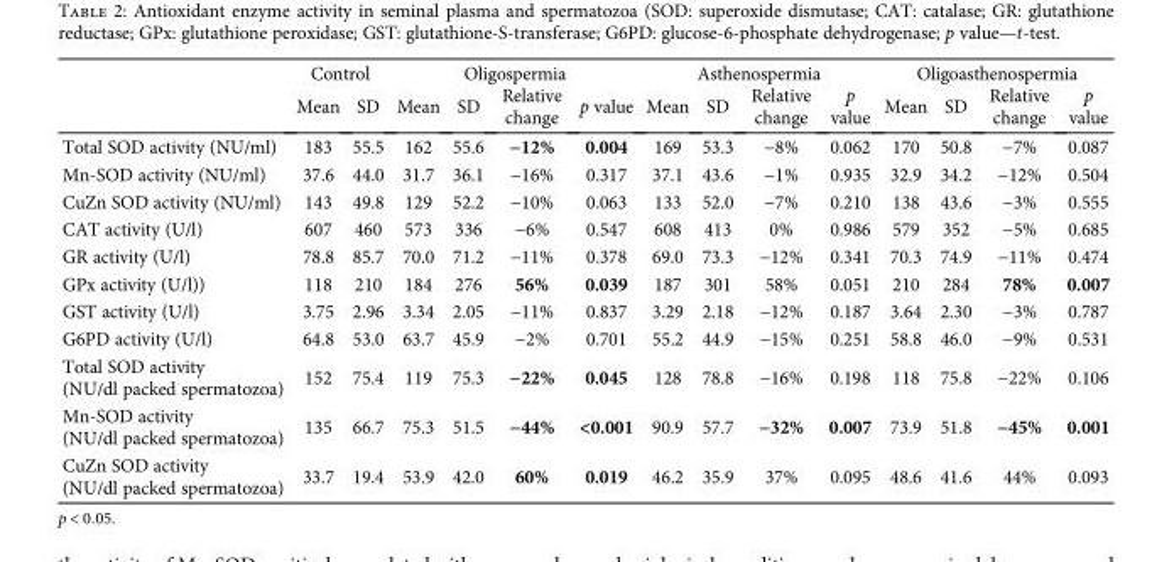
<table><thead><tr><td rowspan="2"></td><td colspan="2">Control</td><td colspan="4">Oligospermia</td><td colspan="4">Asthenospermia</td><td colspan="4">Oligoasthenospermia</td></tr><tr><td>Mean</td><td>SD</td><td>Mean</td><td>SD</td><td>Relative change</td><td>p value</td><td>Mean</td><td>SD</td><td>Relative change</td><td>p value</td><td>Mean</td><td>SD</td><td>Relative change</td><td>p value</td></tr></thead><tbody><tr><td>Total SOD activity (NU/ml)</td><td>183</td><td>55.5</td><td>162</td><td>55.6</td><td>−12%</td><td>0.004</td><td>169</td><td>53.3</td><td>−8%</td><td>0.062</td><td>170</td><td>50.8</td><td>−7%</td><td>0.087</td></tr><tr><td>Mn-SOD activity (NU/ml)</td><td>37.6</td><td>44.0</td><td>31.7</td><td>36.1</td><td>−16%</td><td>0.317</td><td>37.1</td><td>43.6</td><td>−1%</td><td>0.935</td><td>32.9</td><td>34.2</td><td>−12%</td><td>0.504</td></tr><tr><td>CuZn SOD activity (NU/ml)</td><td>143</td><td>49.8</td><td>129</td><td>52.2</td><td>−10%</td><td>0.063</td><td>133</td><td>52.0</td><td>−7%</td><td>0.210</td><td>138</td><td>43.6</td><td>−3%</td><td>0.555</td></tr><tr><td>CAT activity (U/l)</td><td>607</td><td>460</td><td>573</td><td>336</td><td>−6%</td><td>0.547</td><td>608</td><td>413</td><td>0%</td><td>0.986</td><td>579</td><td>352</td><td>−5%</td><td>0.685</td></tr><tr><td>GR activity (U/l)</td><td>78.8</td><td>85.7</td><td>70.0</td><td>71.2</td><td>−11%</td><td>0.378</td><td>69.0</td><td>73.3</td><td>−12%</td><td>0.341</td><td>70.3</td><td>74.9</td><td>−11%</td><td>0.474</td></tr><tr><td>GPx activity (U/l))</td><td>118</td><td>210</td><td>184</td><td>276</td><td>56%</td><td>0.039</td><td>187</td><td>301</td><td>58%</td><td>0.051</td><td>210</td><td>284</td><td>78%</td><td>0.007</td></tr><tr><td>GST activity (U/l)</td><td>3.75</td><td>2.96</td><td>3.34</td><td>2.05</td><td>−11%</td><td>0.837</td><td>3.29</td><td>2.18</td><td>−12%</td><td>0.187</td><td>3.64</td><td>2.30</td><td>−3%</td><td>0.787</td></tr><tr><td>G6PD activity (U/l)</td><td>64.8</td><td>53.0</td><td>63.7</td><td>45.9</td><td>−2%</td><td>0.701</td><td>55.2</td><td>44.9</td><td>−15%</td><td>0.251</td><td>58.8</td><td>46.0</td><td>−9%</td><td>0.531</td></tr><tr><td>Total SOD activity (NU/dl packed spermatozoa)</td><td>152</td><td>75.4</td><td>119</td><td>75.3</td><td>−22%</td><td>0.045</td><td>128</td><td>78.8</td><td>−16%</td><td>0.198</td><td>118</td><td>75.8</td><td>−22%</td><td>0.106</td></tr><tr><td>Mn-SOD activity (NU/dl packed spermatozoa)</td><td>135</td><td>66.7</td><td>75.3</td><td>51.5</td><td>−44%</td><td>&lt;0.001</td><td>90.9</td><td>57.7</td><td>−32%</td><td>0.007</td><td>73.9</td><td>51.8</td><td>−45%</td><td>0.001</td></tr><tr><td>CuZn SOD activity (NU/dl packed spermatozoa)</td><td>33.7</td><td>19.4</td><td>53.9</td><td>42.0</td><td>60%</td><td>0.019</td><td>46.2</td><td>35.9</td><td>37%</td><td>0.095</td><td>48.6</td><td>41.6</td><td>44%</td><td>0.093</td></tr></tbody></table>